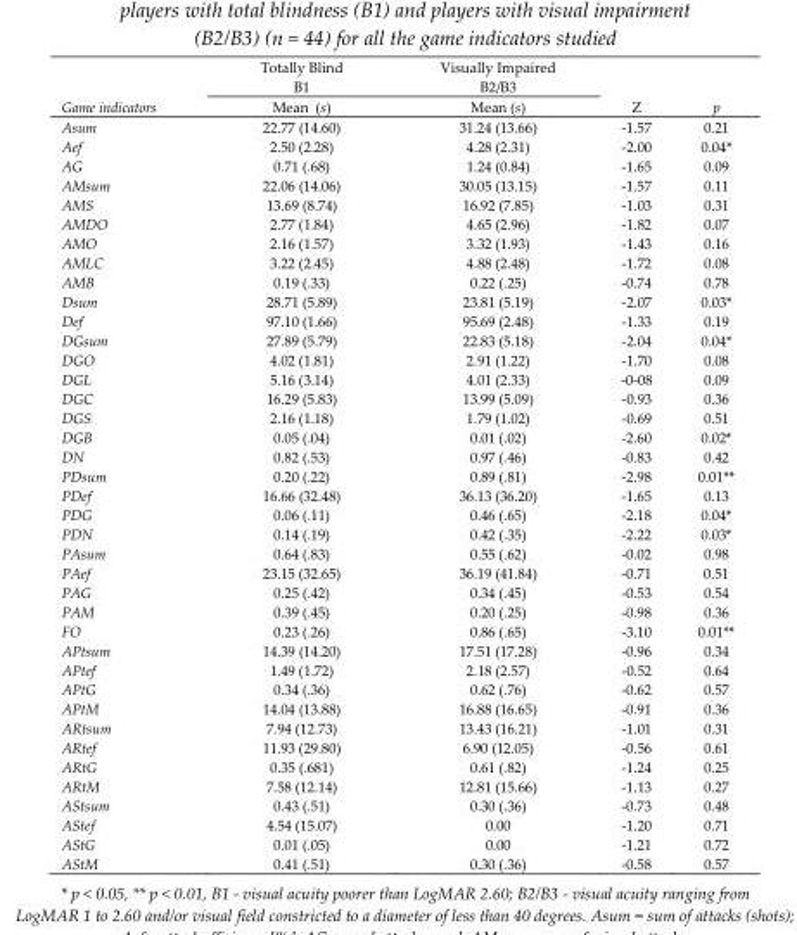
<table><thead><tr><td rowspan="2">Game indicators</td><td rowspan="2">Totally Blind B1 Mean (s)</td><td rowspan="2">Visually Impaired B2/B3 Mean (s)</td><td rowspan="2">Z</td><td rowspan="2">p</td></tr><tr></tr></thead><tbody><tr><td>Asum</td><td>22.77 (14.60)</td><td>31.24 (13.66)</td><td>-1.57</td><td>0.21</td></tr><tr><td>Aef</td><td>2.50 (2.28)</td><td>4.28 (2.31)</td><td>-2.00</td><td>0.04*</td></tr><tr><td>AG</td><td>0.71 (.68)</td><td>1.24 (0.84)</td><td>-1.65</td><td>0.09</td></tr><tr><td>AMsum</td><td>22.06 (14.06)</td><td>30.05 (13.15)</td><td>-1.57</td><td>0.11</td></tr><tr><td>AMS</td><td>13.69 (8.74)</td><td>16.92 (7.85)</td><td>-1.03</td><td>0.31</td></tr><tr><td>AMDO</td><td>2.77 (1.84)</td><td>4.65 (2.96)</td><td>-1.82</td><td>0.07</td></tr><tr><td>AMO</td><td>2.16 (1.57)</td><td>3.32 (1.93)</td><td>-1.43</td><td>0.16</td></tr><tr><td>AMLC</td><td>3.22 (2.45)</td><td>4.88 (2.48)</td><td>-1.72</td><td>0.08</td></tr><tr><td>AMB</td><td>0.19 (.33)</td><td>0.22 (.25)</td><td>-0.74</td><td>0.78</td></tr><tr><td>Dsum</td><td>28.71 (5.89)</td><td>23.81 (5.19)</td><td>-2.07</td><td>0.03*</td></tr><tr><td>Def</td><td>97.10 (1.66)</td><td>95.69 (2.48)</td><td>-1.33</td><td>0.19</td></tr><tr><td>DGsum</td><td>27.89 (5.79)</td><td>22.83 (5.18)</td><td>-2.04</td><td>0.04*</td></tr><tr><td>DGO</td><td>4.02 (1.81)</td><td>2.91 (1.22)</td><td>-1.70</td><td>0.08</td></tr><tr><td>DGL</td><td>5.16 (3.14)</td><td>4.01 (2.33)</td><td>-0-08</td><td>0.09</td></tr><tr><td>DGC</td><td>16.29 (5.83)</td><td>13.99 (5.09)</td><td>-0.93</td><td>0.36</td></tr><tr><td>DGS</td><td>2.16 (1.18)</td><td>1.79 (1.02)</td><td>-0.69</td><td>0.51</td></tr><tr><td>DGB</td><td>0.05 (.04)</td><td>0.01 (.02)</td><td>-2.60</td><td>0.02*</td></tr><tr><td>DN</td><td>0.82 (.53)</td><td>0.97 (.46)</td><td>-0.83</td><td>0.42</td></tr><tr><td>PDsum</td><td>0.20 (.22)</td><td>0.89 (.81)</td><td>-2.98</td><td>0.01**</td></tr><tr><td>PDef</td><td>16.66 (32.48)</td><td>36.13 (36.20)</td><td>-1.65</td><td>0.13</td></tr><tr><td>PDG</td><td>0.06 (.11)</td><td>0.46 (.65)</td><td>-2.18</td><td>0.04*</td></tr><tr><td>PDN</td><td>0.14 (.19)</td><td>0.42 (.35)</td><td>-2.22</td><td>0.03*</td></tr><tr><td>PAsum</td><td>0.64 (.83)</td><td>0.55 (.62)</td><td>-0.02</td><td>0.98</td></tr><tr><td>PAef</td><td>23.15 (32.65)</td><td>36.19 (41.84)</td><td>-0.71</td><td>0.51</td></tr><tr><td>PAG</td><td>0.25 (.42)</td><td>0.34 (.45)</td><td>-0.53</td><td>0.54</td></tr><tr><td>PAM</td><td>0.39 (.45)</td><td>0.20 (.25)</td><td>-0.98</td><td>0.36</td></tr><tr><td>FO</td><td>0.23 (.26)</td><td>0.86 (.65)</td><td>-3.10</td><td>0.01**</td></tr><tr><td>APtsum</td><td>14.39 (14.20)</td><td>17.51 (17.28)</td><td>-0.96</td><td>0.34</td></tr><tr><td>APtef</td><td>1.49 (1.72)</td><td>2.18 (2.57)</td><td>-0.52</td><td>0.64</td></tr><tr><td>APtG</td><td>0.34 (.36)</td><td>0.62 (.76)</td><td>-0.62</td><td>0.57</td></tr><tr><td>APtM</td><td>14.04 (13.88)</td><td>16.88 (16.65)</td><td>-0.91</td><td>0.36</td></tr><tr><td>ARtsum</td><td>7.94 (12.73)</td><td>13.43 (16.21)</td><td>-1.01</td><td>0.31</td></tr><tr><td>ARtef</td><td>11.93 (29.80)</td><td>6.90 (12.05)</td><td>-0.56</td><td>0.61</td></tr><tr><td>ARtG</td><td>0.35 (.681)</td><td>0.61 (.82)</td><td>-1.24</td><td>0.25</td></tr><tr><td>ARtM</td><td>7.58 (12.14)</td><td>12.81 (15.66)</td><td>-1.13</td><td>0.27</td></tr><tr><td>AStsum</td><td>0.43 (.51)</td><td>0.30 (.36)</td><td>-0.73</td><td>0.48</td></tr><tr><td>AStef</td><td>4.54 (15.07)</td><td>0.00</td><td>-1.20</td><td>0.71</td></tr><tr><td>AStG</td><td>0.01 (.05)</td><td>0.00</td><td>-1.21</td><td>0.72</td></tr><tr><td>AStM</td><td>0.41 (.51)</td><td>0.30 (.36)</td><td>-0.58</td><td>0.57</td></tr></tbody></table>